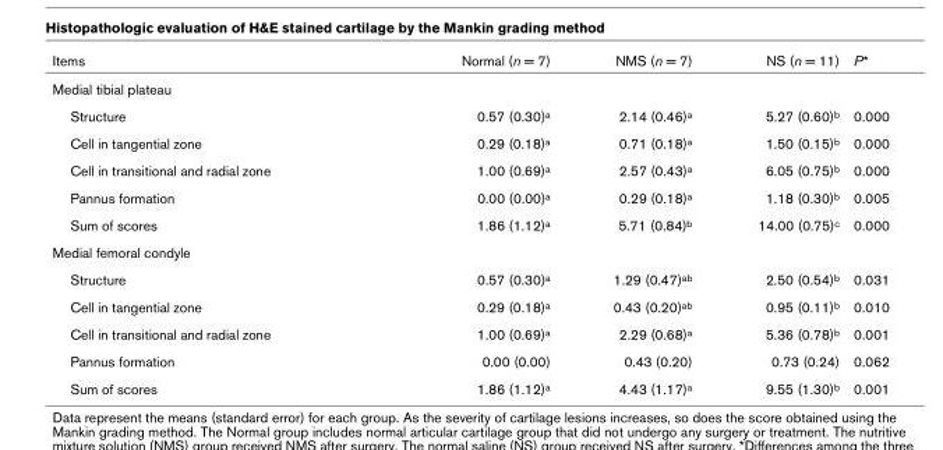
<table><thead><tr><td>Items</td><td>Normal (n = 7)</td><td>NMS (n = 7)</td><td>NS (n = 11)</td><td>P*</td></tr></thead><tbody><tr><td colspan="5">Medial tibial plateau</td></tr><tr><td>Structure</td><td>0.57 (0.30)a</td><td>2.14 (0.46)a</td><td>5.27 (0.60)b</td><td>0.000</td></tr><tr><td>Cell in tangential zone</td><td>0.29 (0.18)a</td><td>0.71 (0.18)a</td><td>1.50 (0.15)b</td><td>0.000</td></tr><tr><td>Cell in transitional and radial zone</td><td>1.00 (0.69)a</td><td>2.57 (0.43)a</td><td>6.05 (0.75)b</td><td>0.000</td></tr><tr><td>Pannus formation</td><td>0.00 (0.00)a</td><td>0.29 (0.18)a</td><td>1.18 (0.30)b</td><td>0.005</td></tr><tr><td>Sum of scores</td><td>1.86 (1.12)a</td><td>5.71 (0.84)b</td><td>14.00 (0.75)c</td><td>0.000</td></tr><tr><td colspan="5">Medial femoral condyle</td></tr><tr><td>Structure</td><td>0.57 (0.30)a</td><td>1.29 (0.47)ab</td><td>2.50 (0.54)b</td><td>0.031</td></tr><tr><td>Cell in tangential zone</td><td>0.29 (0.18)a</td><td>0.43 (0.20)ab</td><td>0.95 (0.11)b</td><td>0.010</td></tr><tr><td>Cell in transitional and radial zone</td><td>1.00 (0.69)a</td><td>2.29 (0.68)a</td><td>5.36 (0.78)b</td><td>0.001</td></tr><tr><td>Pannus formation</td><td>0.00 (0.00)</td><td>0.43 (0.20)</td><td>0.73 (0.24)</td><td>0.062</td></tr><tr><td>Sum of scores</td><td>1.86 (1.12)a</td><td>4.43 (1.17)a</td><td>9.55 (1.30)b</td><td>0.001</td></tr></tbody></table>